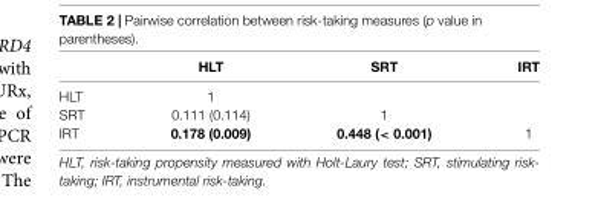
<table><thead><tr><td></td><td>HLT</td><td>SRT</td><td>IRT</td></tr></thead><tbody><tr><td>HLT</td><td>1</td><td></td><td></td></tr><tr><td>SRT</td><td>0.111 (0.114)</td><td>1</td><td></td></tr><tr><td>IRT</td><td>0.178 (0.009)</td><td>0.448 (&lt; 0.001)</td><td>1</td></tr></tbody></table>